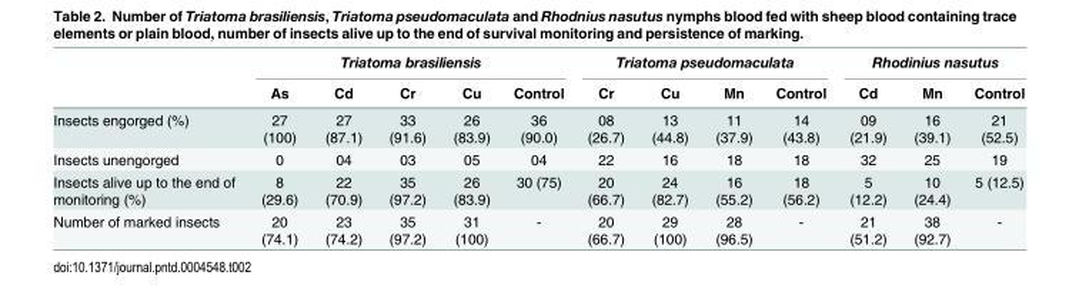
<table><thead><tr><td rowspan="2"></td><td colspan="5">Triatoma brasiliensis</td><td colspan="4">Triatoma pseudomaculata</td><td colspan="3">Rhodinius nasutus</td></tr><tr><td>As</td><td>Cd</td><td>Cr</td><td>Cu</td><td>Control</td><td>Cr</td><td>Cu</td><td>Mn</td><td>Control</td><td>Cd</td><td>Mn</td><td>Control</td></tr></thead><tbody><tr><td>Insects engorged (%)</td><td>27 (100)</td><td>27 (87.1)</td><td>33 (91.6)</td><td>26 (83.9)</td><td>36 (90.0)</td><td>08 (26.7)</td><td>13 (44.8)</td><td>11 (37.9)</td><td>14 (43.8)</td><td>09 (21.9)</td><td>16 (39.1)</td><td>21 (52.5)</td></tr><tr><td>Insects unengorged</td><td>0</td><td>04</td><td>03</td><td>05</td><td>04</td><td>22</td><td>16</td><td>18</td><td>18</td><td>32</td><td>25</td><td>19</td></tr><tr><td>Insects alive up to the end of monitoring (%)</td><td>8 (29.6)</td><td>22 (70.9)</td><td>35 (97.2)</td><td>26 (83.9)</td><td>30 (75)</td><td>20 (66.7)</td><td>24 (82.7)</td><td>16 (55.2)</td><td>18 (56.2)</td><td>5 (12.2)</td><td>10 (24.4)</td><td>5 (12.5)</td></tr><tr><td>Number of marked insects</td><td>20 (74.1)</td><td>23 (74.2)</td><td>35 (97.2)</td><td>31 (100)</td><td>-</td><td>20 (66.7)</td><td>29 (100)</td><td>28 (96.5)</td><td>-</td><td>21 (51.2)</td><td>38 (92.7)</td><td>-</td></tr></tbody></table>